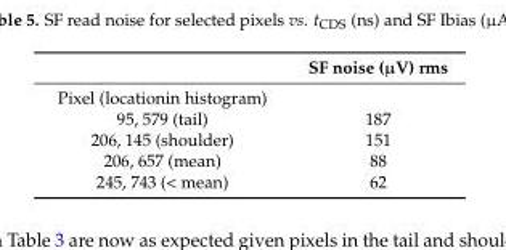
<table><thead><tr><td></td><td>SF noise (µV) rms</td></tr></thead><tbody><tr><td colspan="2">Pixel (locationin histogram)</td></tr><tr><td>95, 579 (tail)</td><td>187</td></tr><tr><td>206, 145 (shoulder)</td><td>151</td></tr><tr><td>206, 657 (mean)</td><td>88</td></tr><tr><td>245, 743 (&lt; mean)</td><td>62</td></tr></tbody></table>